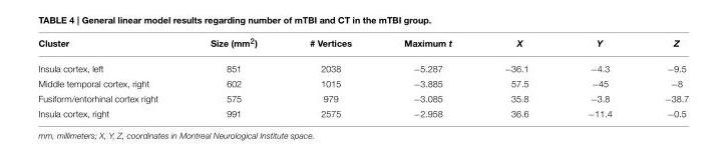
<table><thead><tr><td>Cluster</td><td>Size (mm<sup>2</sup>)</td><td># Vertices</td><td>Maximum t</td><td>X</td><td>Y</td><td>Z</td></tr></thead><tbody><tr><td>Insula cortex, left</td><td>851</td><td>2038</td><td>−5.287</td><td>−36.1</td><td>−4.3</td><td>−9.5</td></tr><tr><td>Middle temporal cortex, right</td><td>602</td><td>1015</td><td>−3.885</td><td>57.5</td><td>−45</td><td>−8</td></tr><tr><td>Fusiform/entorhinal cortex right</td><td>575</td><td>979</td><td>−3.085</td><td>35.8</td><td>−3.8</td><td>−38.7</td></tr><tr><td>Insula cortex, right</td><td>991</td><td>2575</td><td>−2.958</td><td>36.6</td><td>−11.4</td><td>−0.5</td></tr></tbody></table>